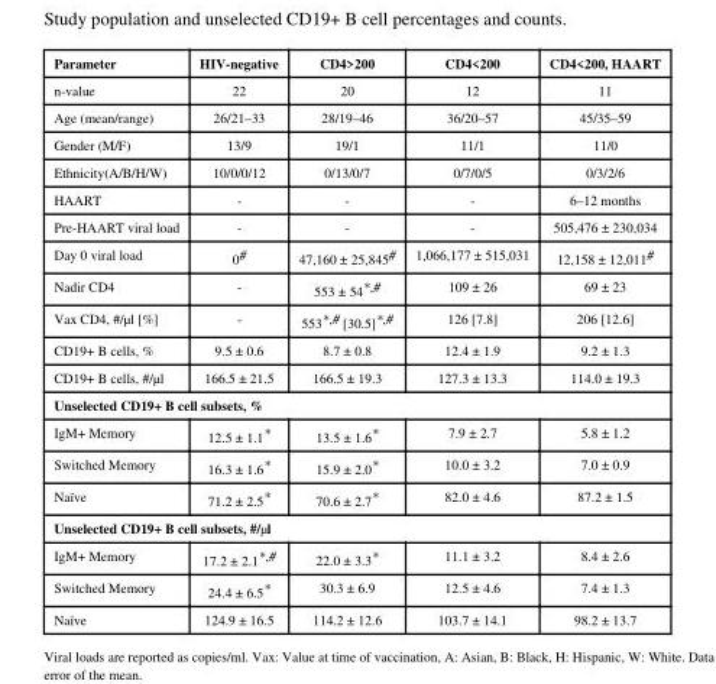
<table><thead><tr><td>Parameter</td><td>HIV-negative</td><td>CD4&gt;200</td><td>CD4&lt;200</td><td>CD4&lt;200, HAART</td></tr></thead><tbody><tr><td>n-value</td><td>22</td><td>20</td><td>12</td><td>11</td></tr><tr><td>Age (mean/range)</td><td>26/21–33</td><td>28/19–46</td><td>36/20–57</td><td>45/35–59</td></tr><tr><td>Gender (M/F)</td><td>13/9</td><td>19/1</td><td>11/1</td><td>11/0</td></tr><tr><td>Ethnicity(A/B/H/W)</td><td>10/0/0/12</td><td>0/13/0/7</td><td>0/7/0/5</td><td>0/3/2/6</td></tr><tr><td>HAART</td><td>-</td><td>-</td><td>-</td><td>6–12 months</td></tr><tr><td>Pre-HAART viral load</td><td>-</td><td>-</td><td>-</td><td>505,476 ± 230,034</td></tr><tr><td>Day 0 viral load</td><td>0#</td><td>47,160 ± 25,845#</td><td>1,066,177 ± 515,031</td><td>12,158 ± 12,011#</td></tr><tr><td>Nadir CD4</td><td>-</td><td>553 ± 54*,#</td><td>109 ± 26</td><td>69 ± 23</td></tr><tr><td>Vax CD4, #/μl [%]</td><td>-</td><td>553*,# [30.5]*,#</td><td>126 [7.8]</td><td>206 [12.6]</td></tr><tr><td>CD19+ B cells, %</td><td>9.5 ± 0.6</td><td>8.7 ± 0.8</td><td>12.4 ± 1.9</td><td>9.2 ± 1.3</td></tr><tr><td>CD19+ B cells, #/μl</td><td>166.5 ± 21.5</td><td>166.5 ± 19.3</td><td>127.3 ± 13.3</td><td>114.0 ± 19.3</td></tr><tr><td colspan="5">Unselected CD19+ B cell subsets, %</td></tr><tr><td>IgM+ Memory</td><td>12.5 ± 1.1*</td><td>13.5 ± 1.6*</td><td>7.9 ± 2.7</td><td>5.8 ± 1.2</td></tr><tr><td>Switched Memory</td><td>16.3 ± 1.6*</td><td>15.9 ± 2.0*</td><td>10.0 ± 3.2</td><td>7.0 ± 0.9</td></tr><tr><td>Naïve</td><td>71.2 ± 2.5*</td><td>70.6 ± 2.7*</td><td>82.0 ± 4.6</td><td>87.2 ± 1.5</td></tr><tr><td colspan="5">Unselected CD19+ B cell subsets, #/μl</td></tr><tr><td>IgM+ Memory</td><td>17.2 ± 2.1*,#</td><td>22.0 ± 3.3*</td><td>11.1 ± 3.2</td><td>8.4 ± 2.6</td></tr><tr><td>Switched Memory</td><td>24.4 ± 6.5*</td><td>30.3 ± 6.9</td><td>12.5 ± 4.6</td><td>7.4 ± 1.3</td></tr><tr><td>Naïve</td><td>124.9 ± 16.5</td><td>114.2 ± 12.6</td><td>103.7 ± 14.1</td><td>98.2 ± 13.7</td></tr></tbody></table>